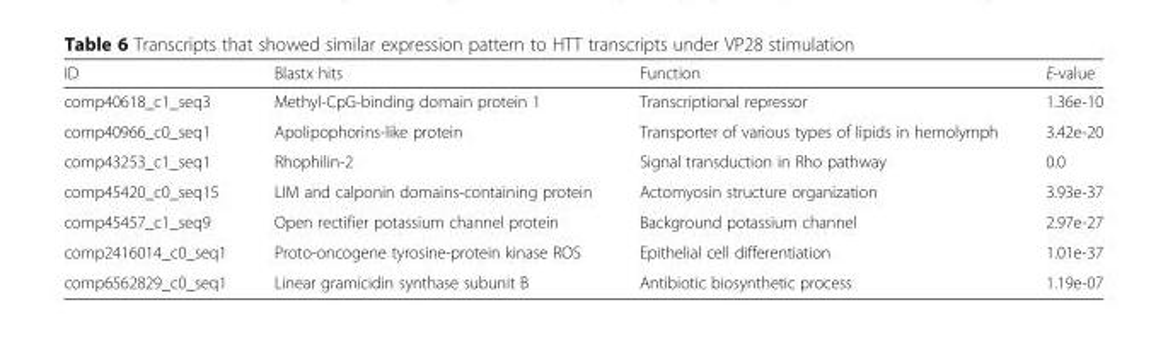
<table><thead><tr><td>ID</td><td>Blastx hits</td><td>Function</td><td>E-value</td></tr></thead><tbody><tr><td>comp40618_c1_seq3</td><td>Methyl-CpG-binding domain protein 1</td><td>Transcriptional repressor</td><td>1.36e-10</td></tr><tr><td>comp40966_c0_seq1</td><td>Apolipophorins-like protein</td><td>Transporter of various types of lipids in hemolymph</td><td>3.42e-20</td></tr><tr><td>comp43253_c1_seq1</td><td>Rhophilin-2</td><td>Signal transduction in Rho pathway</td><td>0.0</td></tr><tr><td>comp45420_c0_seq15</td><td>LIM and calponin domains-containing protein</td><td>Actomyosin structure organization</td><td>3.93e-37</td></tr><tr><td>comp45457_c1_seq9</td><td>Open rectifier potassium channel protein</td><td>Background potassium channel</td><td>2.97e-27</td></tr><tr><td>comp2416014_c0_seq1</td><td>Proto-oncogene tyrosine-protein kinase ROS</td><td>Epithelial cell differentiation</td><td>1.01e-37</td></tr><tr><td>comp6562829_c0_seq1</td><td>Linear gramicidin synthase subunit B</td><td>Antibiotic biosynthetic process</td><td>1.19e-07</td></tr></tbody></table>